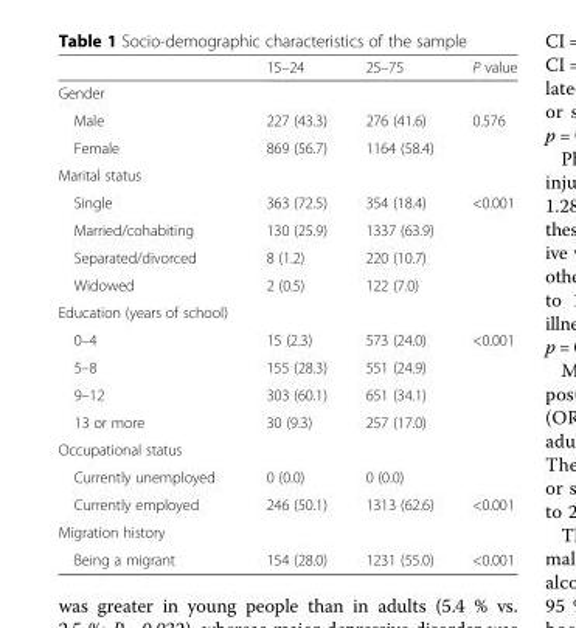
<table><thead><tr><td></td><td>15–24</td><td>25–75</td><td>P value</td></tr></thead><tbody><tr><td colspan="4">Gender</td></tr><tr><td>Male</td><td>227 (43.3)</td><td>276 (41.6)</td><td>0.576</td></tr><tr><td>Female</td><td>869 (56.7)</td><td>1164 (58.4)</td><td></td></tr><tr><td colspan="4">Marital status</td></tr><tr><td>Single</td><td>363 (72.5)</td><td>354 (18.4)</td><td>&lt;0.001</td></tr><tr><td>Married/cohabiting</td><td>130 (25.9)</td><td>1337 (63.9)</td><td></td></tr><tr><td>Separated/divorced</td><td>8 (1.2)</td><td>220 (10.7)</td><td></td></tr><tr><td>Widowed</td><td>2 (0.5)</td><td>122 (7.0)</td><td></td></tr><tr><td colspan="4">Education (years of school)</td></tr><tr><td>0–4</td><td>15 (2.3)</td><td>573 (24.0)</td><td>&lt;0.001</td></tr><tr><td>5–8</td><td>155 (28.3)</td><td>551 (24.9)</td><td></td></tr><tr><td>9–12</td><td>303 (60.1)</td><td>651 (34.1)</td><td></td></tr><tr><td>13 or more</td><td>30 (9.3)</td><td>257 (17.0)</td><td></td></tr><tr><td colspan="4">Occupational status</td></tr><tr><td>Currently unemployed</td><td>0 (0.0)</td><td>0 (0.0)</td><td></td></tr><tr><td>Currently employed</td><td>246 (50.1)</td><td>1313 (62.6)</td><td>&lt;0.001</td></tr><tr><td colspan="4">Migration history</td></tr><tr><td>Being a migrant</td><td>154 (28.0)</td><td>1231 (55.0)</td><td>&lt;0.001</td></tr></tbody></table>